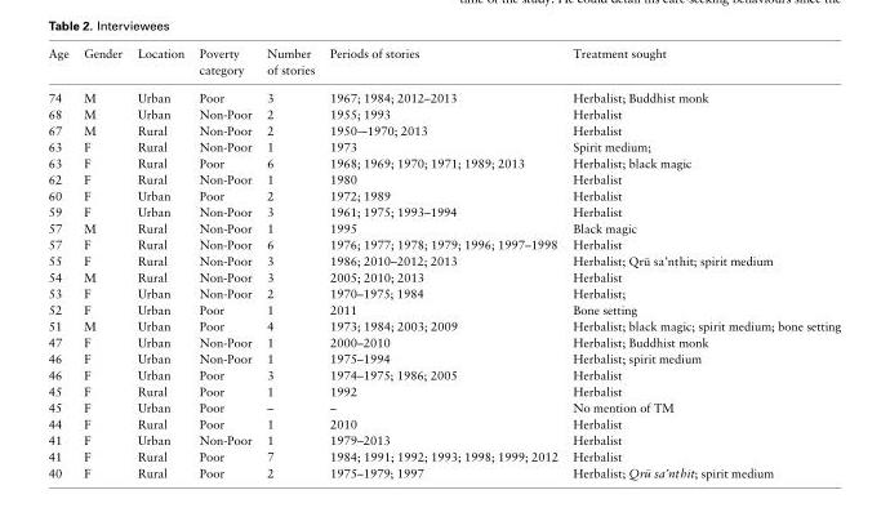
<table><thead><tr><td>Age</td><td>Gender</td><td>Location</td><td>Poverty category</td><td>Number of stories</td><td>Periods of stories</td><td>Treatment sought</td></tr></thead><tbody><tr><td>74</td><td>M</td><td>Urban</td><td>Poor</td><td>3</td><td>1967; 1984; 2012–2013</td><td>Herbalist; Buddhist monk</td></tr><tr><td>68</td><td>M</td><td>Urban</td><td>Non-Poor</td><td>2</td><td>1955; 1993</td><td>Herbalist</td></tr><tr><td>67</td><td>M</td><td>Rural</td><td>Non-Poor</td><td>2</td><td>1950-–1970; 2013</td><td>Herbalist</td></tr><tr><td>63</td><td>F</td><td>Rural</td><td>Non-Poor</td><td>1</td><td>1973</td><td>Spirit medium;</td></tr><tr><td>63</td><td>F</td><td>Rural</td><td>Poor</td><td>6</td><td>1968; 1969; 1970; 1971; 1989; 2013</td><td>Herbalist; black magic</td></tr><tr><td>62</td><td>F</td><td>Rural</td><td>Non-Poor</td><td>1</td><td>1980</td><td>Herbalist</td></tr><tr><td>60</td><td>F</td><td>Urban</td><td>Poor</td><td>2</td><td>1972; 1989</td><td>Herbalist</td></tr><tr><td>59</td><td>F</td><td>Urban</td><td>Non-Poor</td><td>3</td><td>1961; 1975; 1993–1994</td><td>Herbalist</td></tr><tr><td>57</td><td>M</td><td>Rural</td><td>Non-Poor</td><td>1</td><td>1995</td><td>Black magic</td></tr><tr><td>57</td><td>F</td><td>Rural</td><td>Non-Poor</td><td>6</td><td>1976; 1977; 1978; 1979; 1996; 1997–1998</td><td>Herbalist</td></tr><tr><td>55</td><td>F</td><td>Rural</td><td>Non-Poor</td><td>3</td><td>1986; 2010–2012; 2013</td><td>Herbalist; Qr�u sa’nt: hit; spirit medium</td></tr><tr><td>54</td><td>M</td><td>Rural</td><td>Non-Poor</td><td>3</td><td>2005; 2010; 2013</td><td>Herbalist</td></tr><tr><td>53</td><td>F</td><td>Urban</td><td>Non-Poor</td><td>2</td><td>1970–1975; 1984</td><td>Herbalist;</td></tr><tr><td>52</td><td>F</td><td>Urban</td><td>Poor</td><td>1</td><td>2011</td><td>Bone setting</td></tr><tr><td>51</td><td>M</td><td>Urban</td><td>Poor</td><td>4</td><td>1973; 1984; 2003; 2009</td><td>Herbalist; black magic; spirit medium; bone setting</td></tr><tr><td>47</td><td>F</td><td>Urban</td><td>Non-Poor</td><td>1</td><td>2000–2010</td><td>Herbalist; Buddhist monk</td></tr><tr><td>46</td><td>F</td><td>Urban</td><td>Non-Poor</td><td>1</td><td>1975–1994</td><td>Herbalist; spirit medium</td></tr><tr><td>46</td><td>F</td><td>Urban</td><td>Poor</td><td>3</td><td>1974–1975; 1986; 2005</td><td>Herbalist</td></tr><tr><td>45</td><td>F</td><td>Rural</td><td>Poor</td><td>1</td><td>1992</td><td>Herbalist</td></tr><tr><td>45</td><td>F</td><td>Urban</td><td>Poor</td><td>–</td><td>–</td><td>No mention of TM</td></tr><tr><td>44</td><td>F</td><td>Rural</td><td>Poor</td><td>1</td><td>2010</td><td>Herbalist</td></tr><tr><td>41</td><td>F</td><td>Urban</td><td>Non-Poor</td><td>1</td><td>1979–2013</td><td>Herbalist</td></tr><tr><td>41</td><td>F</td><td>Rural</td><td>Poor</td><td>7</td><td>1984; 1991; 1992; 1993; 1998; 1999; 2012</td><td>Herbalist</td></tr><tr><td>40</td><td>F</td><td>Rural</td><td>Poor</td><td>2</td><td>1975–1979; 1997</td><td>Herbalist; Qr�u sa’nt: hit; spirit medium</td></tr></tbody></table>